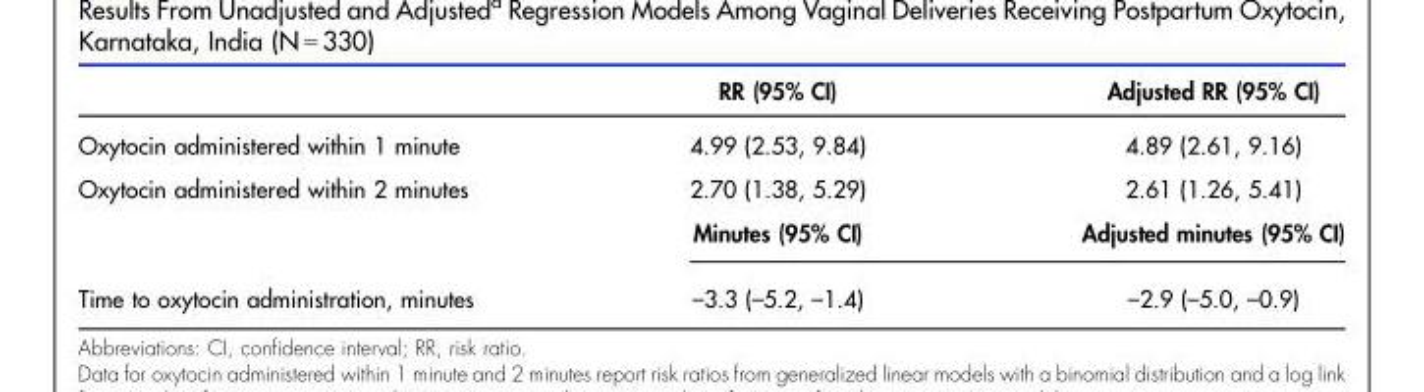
<table><thead><tr><td></td><td>RR (95% CI)</td><td>Adjusted RR (95% CI)</td></tr></thead><tbody><tr><td>Oxytocin administered within 1 minute</td><td>4.99 (2.53, 9.84)</td><td>4.89 (2.61, 9.16)</td></tr><tr><td rowspan="2">Oxytocin administered within 2 minutes</td><td>2.70 (1.38, 5.29)</td><td>2.61 (1.26, 5.41)</td></tr><tr><td>Minutes (95% CI)</td><td>Adjusted minutes (95% CI)</td></tr><tr><td>Time to oxytocin administration, minutes</td><td>–3.3 (–5.2, –1.4)</td><td>–2.9 (–5.0, –0.9)</td></tr></tbody></table>